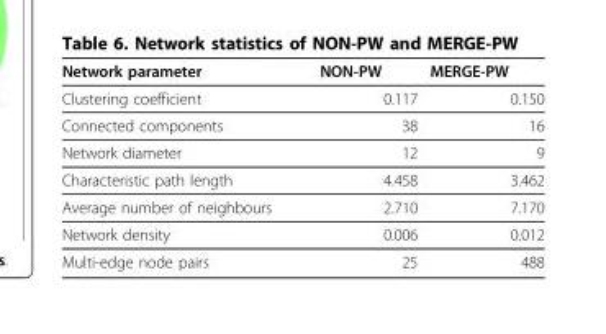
<table><thead><tr><td>Network parameter</td><td>NON-PW</td><td>MERGE-PW</td></tr></thead><tbody><tr><td>Clustering coefficient</td><td>0.117</td><td>0.150</td></tr><tr><td>Connected components</td><td>38</td><td>16</td></tr><tr><td>Network diameter</td><td>12</td><td>9</td></tr><tr><td>Characteristic path length</td><td>4.458</td><td>3.462</td></tr><tr><td>Average number of neighbours</td><td>2.710</td><td>7.170</td></tr><tr><td>Network density</td><td>0.006</td><td>0.012</td></tr><tr><td>Multi-edge node pairs</td><td>25</td><td>488</td></tr></tbody></table>